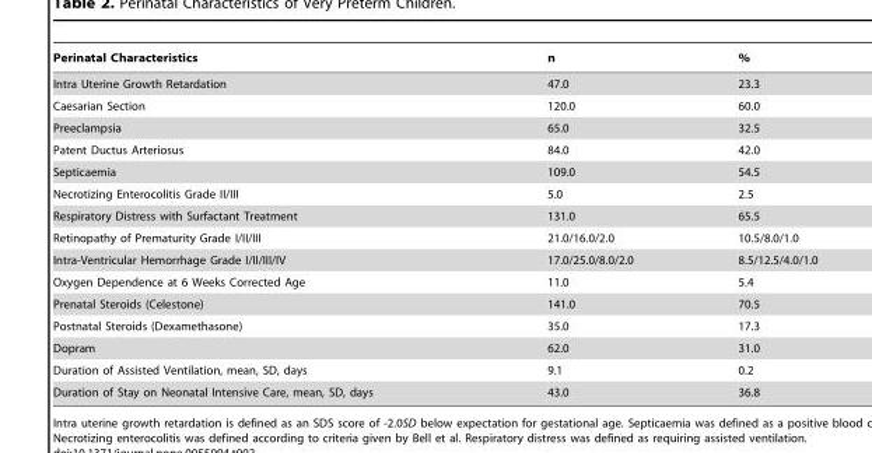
<table><thead><tr><td>Perinatal Characteristics</td><td>n</td><td>%</td></tr></thead><tbody><tr><td>Intra Uterine Growth Retardation</td><td>47.0</td><td>23.3</td></tr><tr><td>Caesarian Section</td><td>120.0</td><td>60.0</td></tr><tr><td>Preeclampsia</td><td>65.0</td><td>32.5</td></tr><tr><td>Patent Ductus Arteriosus</td><td>84.0</td><td>42.0</td></tr><tr><td>Septicaemia</td><td>109.0</td><td>54.5</td></tr><tr><td>Necrotizing Enterocolitis Grade II/III</td><td>5.0</td><td>2.5</td></tr><tr><td>Respiratory Distress with Surfactant Treatment</td><td>131.0</td><td>65.5</td></tr><tr><td>Retinopathy of Prematurity Grade I/II/III</td><td>21.0/16.0/2.0</td><td>10.5/8.0/1.0</td></tr><tr><td>Intra-Ventricular Hemorrhage Grade I/II/III/IV</td><td>17.0/25.0/8.0/2.0</td><td>8.5/12.5/4.0/1.0</td></tr><tr><td>Oxygen Dependence at 6 Weeks Corrected Age</td><td>11.0</td><td>5.4</td></tr><tr><td>Prenatal Steroids (Celestone)</td><td>141.0</td><td>70.5</td></tr><tr><td>Postnatal Steroids (Dexamethasone)</td><td>35.0</td><td>17.3</td></tr><tr><td>Dopram</td><td>62.0</td><td>31.0</td></tr><tr><td>Duration of Assisted Ventilation, mean, SD, days</td><td>9.1</td><td>0.2</td></tr><tr><td>Duration of Stay on Neonatal Intensive Care, mean, SD, days</td><td>43.0</td><td>36.8</td></tr></tbody></table>